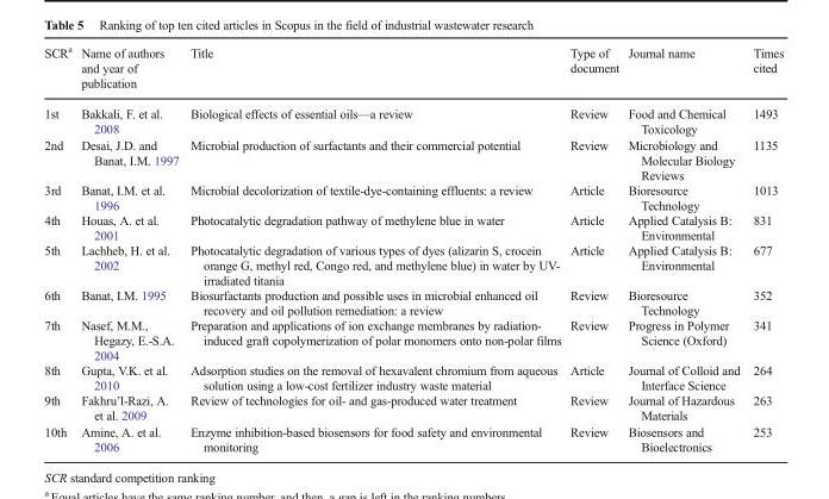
<table><thead><tr><td>SCR<sup>a</sup></td><td>Name of authors and year of publication</td><td>Title</td><td>Type of document</td><td>Journal name</td><td>Times cited</td></tr></thead><tbody><tr><td>1st</td><td>Bakkali, F. et al. 2008</td><td>Biological effects of essential oils—a review</td><td>Review</td><td>Food and Chemical Toxicology</td><td>1493</td></tr><tr><td>2nd</td><td>Desai, J.D. and Banat, I.M. 1997</td><td>Microbial production of surfactants and their commercial potential</td><td>Review</td><td>Microbiology and Molecular Biology Reviews</td><td>1135</td></tr><tr><td>3rd</td><td>Banat, I.M. et al. 1996</td><td>Microbial decolorization of textile-dye-containing effluents: a review</td><td>Article</td><td>Bioresource Technology</td><td>1013</td></tr><tr><td>4th</td><td>Houas, A. et al. 2001</td><td>Photocatalytic degradation pathway of methylene blue in water</td><td>Article</td><td>Applied Catalysis B: Environmental</td><td>831</td></tr><tr><td>5th</td><td>Lachheb, H. et al. 2002</td><td>Photocatalytic degradation of various types of dyes (alizarin S, crocein orange G, methyl red, Congo red, and methylene blue) in water by UV- irradiated titania</td><td>Article</td><td>Applied Catalysis B: Environmental</td><td>677</td></tr><tr><td>6th</td><td>Banat, I.M. 1995</td><td>Biosurfactants production and possible uses in microbial enhanced oil recovery and oil pollution remediation: a review</td><td>Review</td><td>Bioresource Technology</td><td>352</td></tr><tr><td>7th</td><td>Nasef, M.M., Hegazy, E.-S.A. 2004</td><td>Preparation and applications of ion exchange membranes by radiation- induced graft copolymerization of polar monomers onto non-polar films</td><td>Review</td><td>Progress in Polymer Science (Oxford)</td><td>341</td></tr><tr><td>8th</td><td>Gupta, V.K. et al. 2010</td><td>Adsorption studies on the removal of hexavalent chromium from aqueous solution using a low-cost fertilizer industry waste material</td><td>Article</td><td>Journal of Colloid and Interface Science</td><td>264</td></tr><tr><td>9th</td><td>Fakhru’l-Razi, A. et al. 2009</td><td>Review of technologies for oil- and gas-produced water treatment</td><td>Review</td><td>Journal of Hazardous Materials</td><td>263</td></tr><tr><td>10th</td><td>Amine, A. et al. 2006</td><td>Enzyme inhibition-based biosensors for food safety and environmental monitoring</td><td>Review</td><td>Biosensors and Bioelectronics</td><td>253</td></tr></tbody></table>